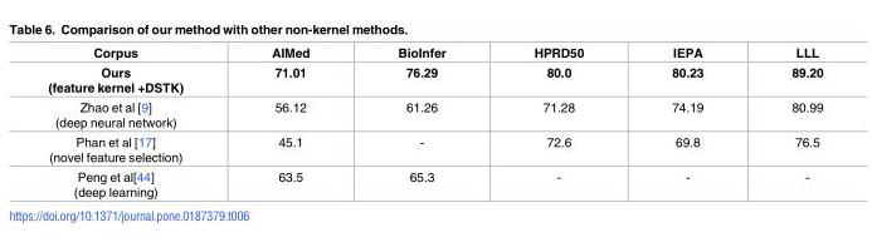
<table><thead><tr><td>Corpus</td><td>AIMed</td><td>BioInfer</td><td>HPRD50</td><td>IEPA</td><td>LLL</td></tr></thead><tbody><tr><td>Ours (feature kernel +DSTK)</td><td>71.01</td><td>76.29</td><td>80.0</td><td>80.23</td><td>89.20</td></tr><tr><td>Zhao et al [9] (deep neural network)</td><td>56.12</td><td>61.26</td><td>71.28</td><td>74.19</td><td>80.99</td></tr><tr><td>Phan et al [17] (novel feature selection)</td><td>45.1</td><td>-</td><td>72.6</td><td>69.8</td><td>76.5</td></tr><tr><td>Peng et al[44] (deep learning)</td><td>63.5</td><td>65.3</td><td>-</td><td>-</td><td>-</td></tr></tbody></table>